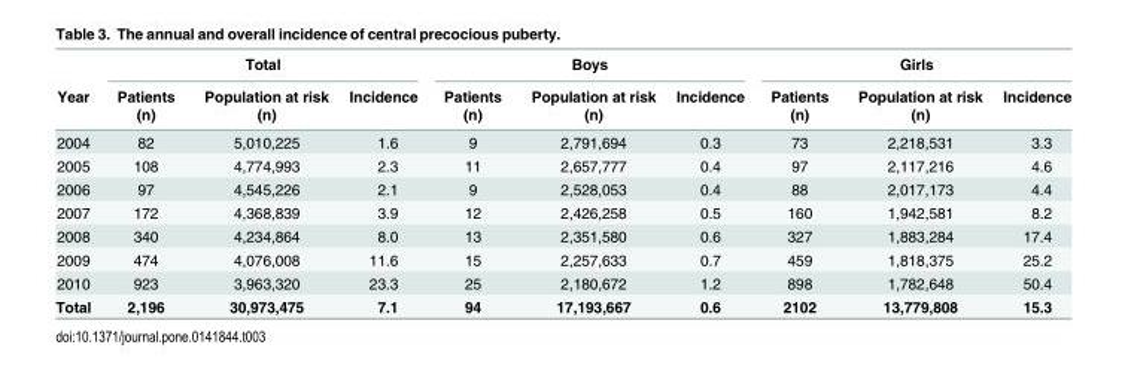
<table><thead><tr><td rowspan="2">Year</td><td colspan="3">Total</td><td colspan="3">Boys</td><td colspan="3">Girls</td></tr><tr><td>Patients (n)</td><td>Population at risk (n)</td><td>Incidence</td><td>Patients (n)</td><td>Population at risk (n)</td><td>Incidence</td><td>Patients (n)</td><td>Population at risk (n)</td><td>Incidence</td></tr></thead><tbody><tr><td>2004</td><td>82</td><td>5,010,225</td><td>1.6</td><td>9</td><td>2,791,694</td><td>0.3</td><td>73</td><td>2,218,531</td><td>3.3</td></tr><tr><td>2005</td><td>108</td><td>4,774,993</td><td>2.3</td><td>11</td><td>2,657,777</td><td>0.4</td><td>97</td><td>2,117,216</td><td>4.6</td></tr><tr><td>2006</td><td>97</td><td>4,545,226</td><td>2.1</td><td>9</td><td>2,528,053</td><td>0.4</td><td>88</td><td>2,017,173</td><td>4.4</td></tr><tr><td>2007</td><td>172</td><td>4,368,839</td><td>3.9</td><td>12</td><td>2,426,258</td><td>0.5</td><td>160</td><td>1,942,581</td><td>8.2</td></tr><tr><td>2008</td><td>340</td><td>4,234,864</td><td>8.0</td><td>13</td><td>2,351,580</td><td>0.6</td><td>327</td><td>1,883,284</td><td>17.4</td></tr><tr><td>2009</td><td>474</td><td>4,076,008</td><td>11.6</td><td>15</td><td>2,257,633</td><td>0.7</td><td>459</td><td>1,818,375</td><td>25.2</td></tr><tr><td>2010</td><td>923</td><td>3,963,320</td><td>23.3</td><td>25</td><td>2,180,672</td><td>1.2</td><td>898</td><td>1,782,648</td><td>50.4</td></tr><tr><td>Total</td><td>2,196</td><td>30,973,475</td><td>7.1</td><td>94</td><td>17,193,667</td><td>0.6</td><td>2102</td><td>13,779,808</td><td>15.3</td></tr></tbody></table>